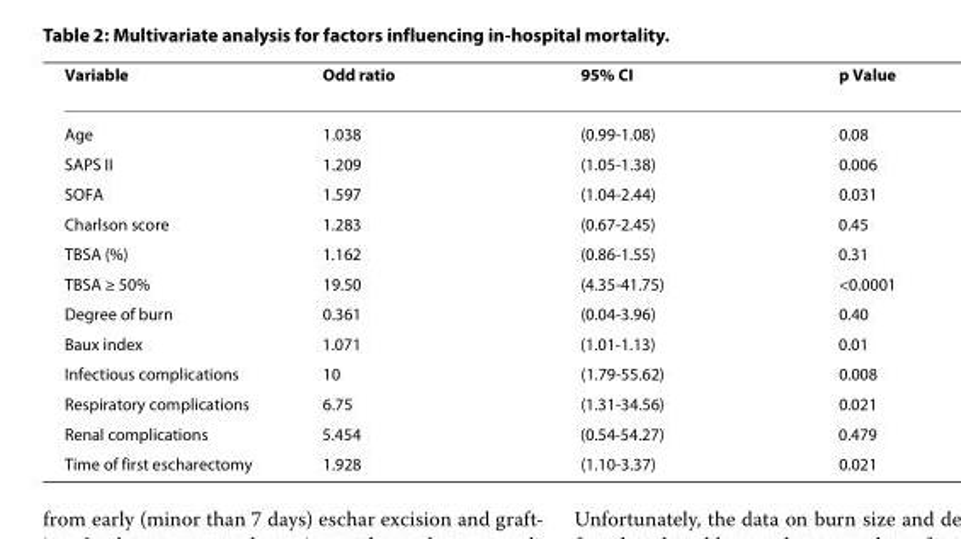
<table><thead><tr><td>Variable</td><td>Odd ratio</td><td>95% CI</td><td>p Value</td></tr></thead><tbody><tr><td>Age</td><td>1.038</td><td>(0.99-1.08)</td><td>0.08</td></tr><tr><td>SAPS II</td><td>1.209</td><td>(1.05-1.38)</td><td>0.006</td></tr><tr><td>SOFA</td><td>1.597</td><td>(1.04-2.44)</td><td>0.031</td></tr><tr><td>Charlson score</td><td>1.283</td><td>(0.67-2.45)</td><td>0.45</td></tr><tr><td>TBSA (%)</td><td>1.162</td><td>(0.86-1.55)</td><td>0.31</td></tr><tr><td>TBSA ≥ 50%</td><td>19.50</td><td>(4.35-41.75)</td><td>&lt;0.0001</td></tr><tr><td>Degree of burn</td><td>0.361</td><td>(0.04-3.96)</td><td>0.40</td></tr><tr><td>Baux index</td><td>1.071</td><td>(1.01-1.13)</td><td>0.01</td></tr><tr><td>Infectious complications</td><td>10</td><td>(1.79-55.62)</td><td>0.008</td></tr><tr><td>Respiratory complications</td><td>6.75</td><td>(1.31-34.56)</td><td>0.021</td></tr><tr><td>Renal complications</td><td>5.454</td><td>(0.54-54.27)</td><td>0.479</td></tr><tr><td>Time of first escharectomy</td><td>1.928</td><td>(1.10-3.37)</td><td>0.021</td></tr></tbody></table>